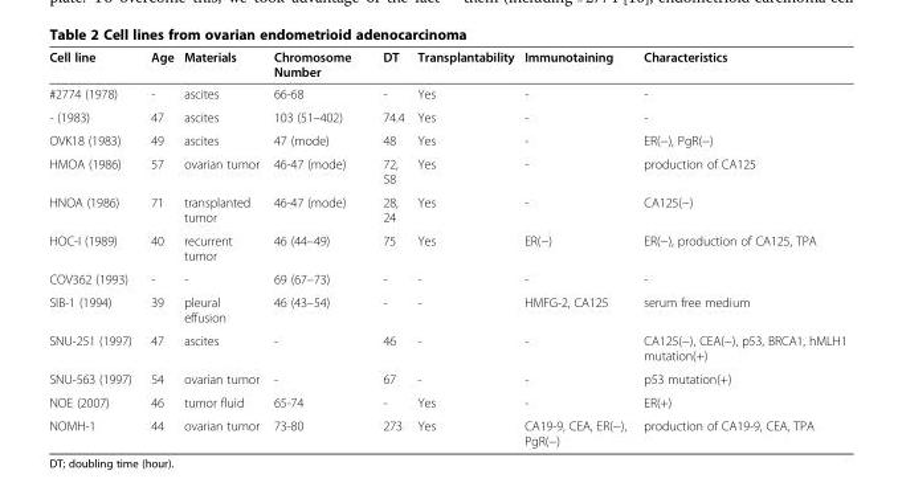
<table><thead><tr><td>Cell line</td><td>Age</td><td>Materials</td><td>Chromosome Number</td><td>DT</td><td>Transplantability</td><td>Immunotaining</td><td>Characteristics</td></tr></thead><tbody><tr><td>#2774 (1978)</td><td>-</td><td>ascites</td><td>66-68</td><td>-</td><td>Yes</td><td>-</td><td>-</td></tr><tr><td>- (1983)</td><td>47</td><td>ascites</td><td>103 (51–402)</td><td>74.4</td><td>Yes</td><td>-</td><td>-</td></tr><tr><td>OVK18 (1983)</td><td>49</td><td>ascites</td><td>47 (mode)</td><td>48</td><td>Yes</td><td>-</td><td>ER(−), PgR(−)</td></tr><tr><td>HMOA (1986)</td><td>57</td><td>ovarian tumor</td><td>46-47 (mode)</td><td>72, 58</td><td>Yes</td><td>-</td><td>production of CA125</td></tr><tr><td>HNOA (1986)</td><td>71</td><td>transplanted tumor</td><td>46-47 (mode)</td><td>28, 24</td><td>Yes</td><td>-</td><td>CA125(−)</td></tr><tr><td>HOC-I (1989)</td><td>40</td><td>recurrent tumor</td><td>46 (44–49)</td><td>75</td><td>Yes</td><td>ER(−)</td><td>ER(−), production of CA125, TPA</td></tr><tr><td>COV362 (1993)</td><td>-</td><td>-</td><td>69 (67–73)</td><td>-</td><td>-</td><td>-</td><td>-</td></tr><tr><td>SIB-1 (1994)</td><td>39</td><td>pleural effusion</td><td>46 (43–54)</td><td>-</td><td>-</td><td>HMFG-2, CA125</td><td>serum free medium</td></tr><tr><td>SNU-251 (1997)</td><td>47</td><td>ascites</td><td>-</td><td>46</td><td>-</td><td>-</td><td>CA125(−), CEA(−), p53, BRCA1, hMLH1 mutation(+)</td></tr><tr><td>SNU-563 (1997)</td><td>54</td><td>ovarian tumor</td><td>-</td><td>67</td><td>-</td><td>-</td><td>p53 mutation(+)</td></tr><tr><td>NOE (2007)</td><td>46</td><td>tumor fluid</td><td>65-74</td><td>-</td><td>Yes</td><td>-</td><td>ER(+)</td></tr><tr><td>NOMH-1</td><td>44</td><td>ovarian tumor</td><td>73-80</td><td>273</td><td>Yes</td><td>CA19-9, CEA, ER(−), PgR(−)</td><td>production of CA19-9, CEA, TPA</td></tr></tbody></table>